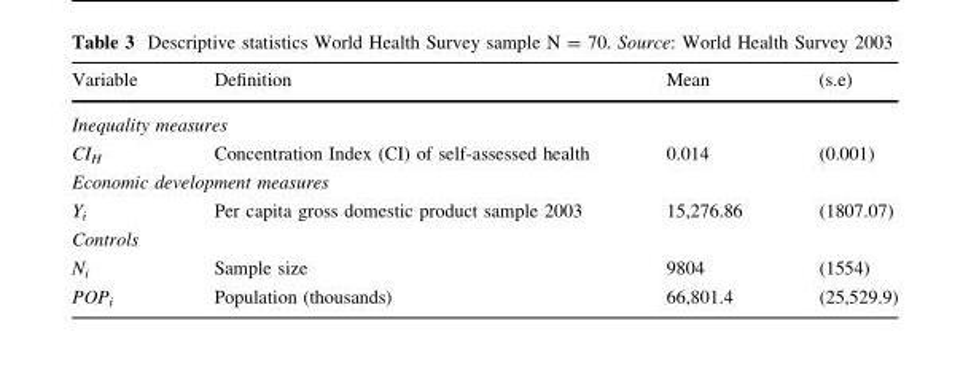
<table><thead><tr><td>Variable</td><td>Definition</td><td>Mean</td><td>(s.e)</td></tr></thead><tbody><tr><td colspan="4">Inequality measures</td></tr><tr><td>CI<sub>H</sub></td><td>Concentration Index (CI) of self-assessed health</td><td>0.014</td><td>(0.001)</td></tr><tr><td colspan="4">Economic development measures</td></tr><tr><td>Y<sub>i</sub></td><td>Per capita gross domestic product sample 2003</td><td>15,276.86</td><td>(1807.07)</td></tr><tr><td colspan="4">Controls</td></tr><tr><td>N<sub>i</sub></td><td>Sample size</td><td>9804</td><td>(1554)</td></tr><tr><td>POP<sub>i</sub></td><td>Population (thousands)</td><td>66,801.4</td><td>(25,529.9)</td></tr></tbody></table>